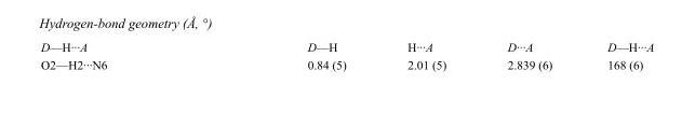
<table><tbody><tr><td>D—H···A</td><td>D—H</td><td>H···A</td><td>D···A</td><td>D—H···A</td></tr><tr><td>O2—H2···N6</td><td>0.84 (5)</td><td>2.01 (5)</td><td>2.839 (6)</td><td>168 (6)</td></tr></tbody></table>